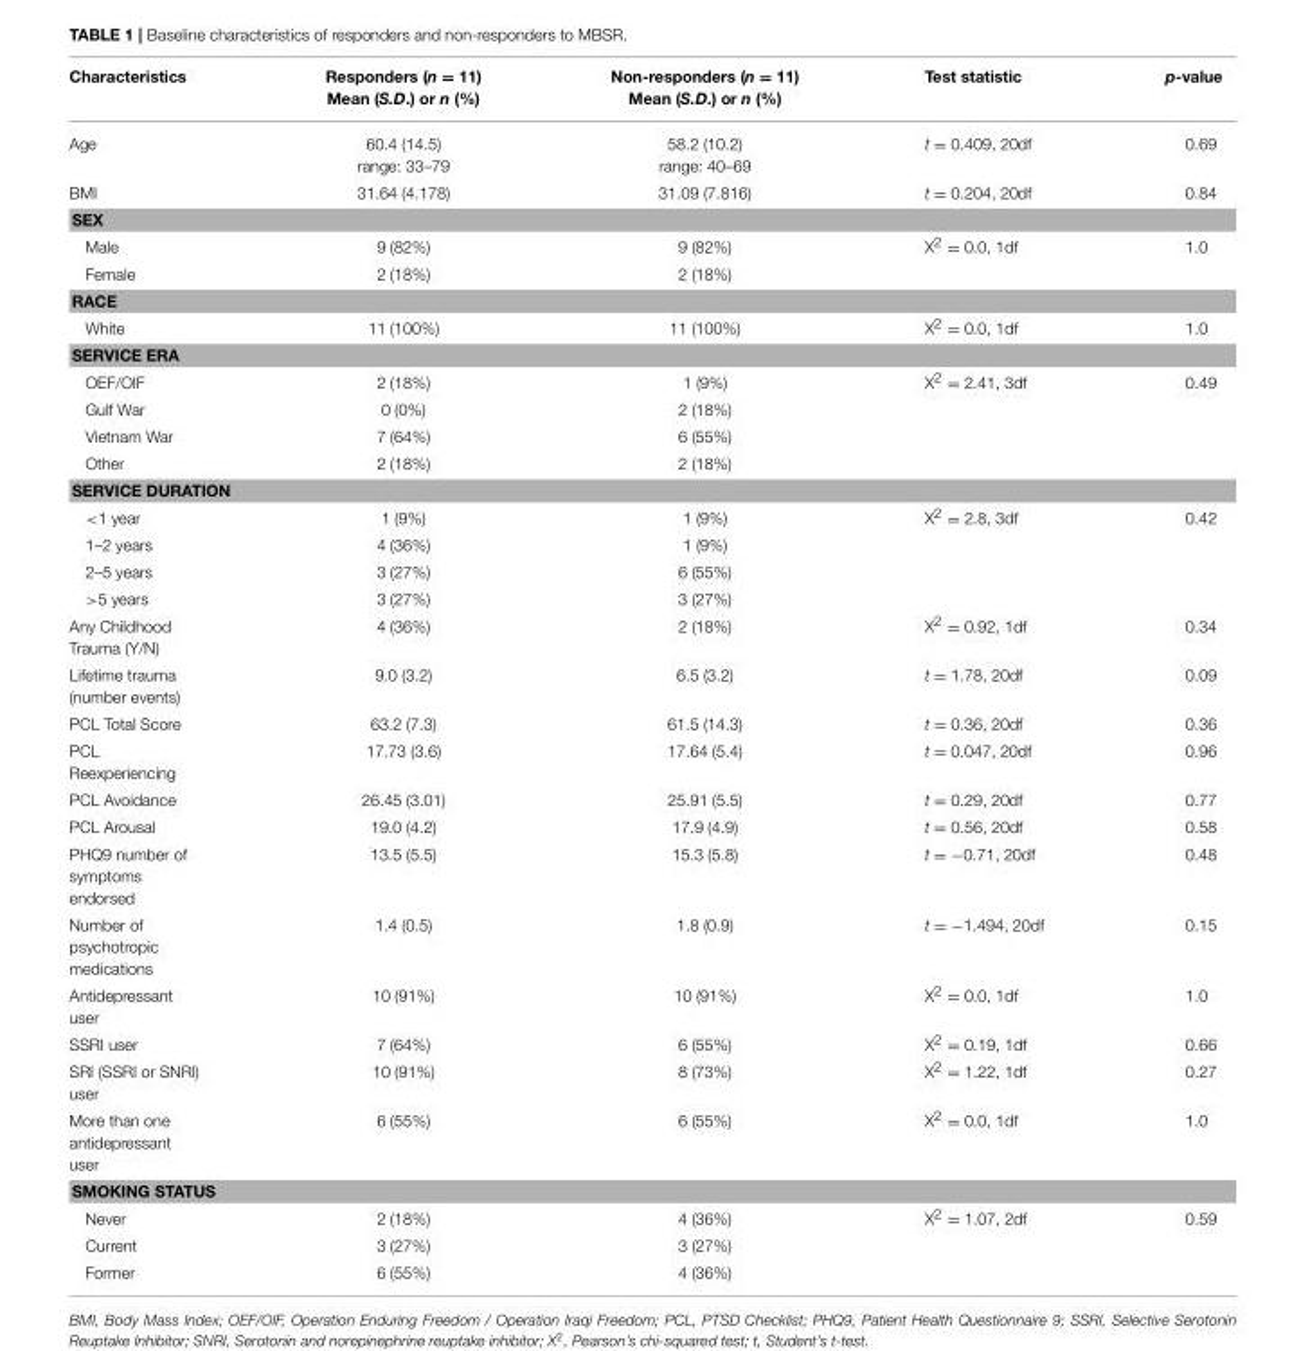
<table><thead><tr><td>Characteristics</td><td>Responders (n = 11) Mean (S.D.) or n (%)</td><td>Non-responders (n = 11) Mean (S.D.) or n (%)</td><td>Test statistic</td><td>p-value</td></tr></thead><tbody><tr><td>Age</td><td>60.4 (14.5) range: 33–79</td><td>58.2 (10.2) range: 40–69</td><td>t = 0.409, 20df</td><td>0.69</td></tr><tr><td>BMI</td><td>31.64 (4.178)</td><td>31.09 (7.816)</td><td>t = 0.204, 20df</td><td>0.84</td></tr><tr><td colspan="5">SEX</td></tr><tr><td>Male</td><td>9 (82%)</td><td>9 (82%)</td><td>X<sup>2</sup> = 0.0, 1df</td><td>1.0</td></tr><tr><td>Female</td><td>2 (18%)</td><td>2 (18%)</td><td></td><td></td></tr><tr><td colspan="5">RACE</td></tr><tr><td>White</td><td>11 (100%)</td><td>11 (100%)</td><td>X<sup>2</sup> = 0.0, 1df</td><td>1.0</td></tr><tr><td colspan="5">SERVICE ERA</td></tr><tr><td>OEF/OIF</td><td>2 (18%)</td><td>1 (9%)</td><td>X<sup>2</sup> = 2.41, 3df</td><td>0.49</td></tr><tr><td>Gulf War</td><td>0 (0%)</td><td>2 (18%)</td><td></td><td></td></tr><tr><td>Vietnam War</td><td>7 (64%)</td><td>6 (55%)</td><td></td><td></td></tr><tr><td>Other</td><td>2 (18%)</td><td>2 (18%)</td><td></td><td></td></tr><tr><td colspan="5">SERVICE DURATION</td></tr><tr><td>&lt;1 year</td><td>1 (9%)</td><td>1 (9%)</td><td>X<sup>2</sup> = 2.8, 3df</td><td>0.42</td></tr><tr><td>1–2 years</td><td>4 (36%)</td><td>1 (9%)</td><td></td><td></td></tr><tr><td>2–5 years</td><td>3 (27%)</td><td>6 (55%)</td><td></td><td></td></tr><tr><td>&gt;5 years</td><td>3 (27%)</td><td>3 (27%)</td><td></td><td></td></tr><tr><td>Any Childhood Trauma (Y/N)</td><td>4 (36%)</td><td>2 (18%)</td><td>X<sup>2</sup> = 0.92, 1df</td><td>0.34</td></tr><tr><td>Lifetime trauma (number events)</td><td>9.0 (3.2)</td><td>6.5 (3.2)</td><td>t = 1.78, 20df</td><td>0.09</td></tr><tr><td>PCL Total Score</td><td>63.2 (7.3)</td><td>61.5 (14.3)</td><td>t = 0.36, 20df</td><td>0.36</td></tr><tr><td>PCL Reexperiencing</td><td>17.73 (3.6)</td><td>17.64 (5.4)</td><td>t = 0.047, 20df</td><td>0.96</td></tr><tr><td>PCL Avoidance</td><td>26.45 (3.01)</td><td>25.91 (5.5)</td><td>t = 0.29, 20df</td><td>0.77</td></tr><tr><td>PCL Arousal</td><td>19.0 (4.2)</td><td>17.9 (4.9)</td><td>t = 0.56, 20df</td><td>0.58</td></tr><tr><td>PHQ9 number of symptoms endorsed</td><td>13.5 (5.5)</td><td>15.3 (5.8)</td><td>t = −0.71, 20df</td><td>0.48</td></tr><tr><td>Number of psychotropic medications</td><td>1.4 (0.5)</td><td>1.8 (0.9)</td><td>t = −1.494, 20df</td><td>0.15</td></tr><tr><td>Antidepressant user</td><td>10 (91%)</td><td>10 (91%)</td><td>X<sup>2</sup> = 0.0, 1df</td><td>1.0</td></tr><tr><td>SSRI user</td><td>7 (64%)</td><td>6 (55%)</td><td>X<sup>2</sup> = 0.19, 1df</td><td>0.66</td></tr><tr><td>SRI (SSRI or SNRI) user</td><td>10 (91%)</td><td>8 (73%)</td><td>X<sup>2</sup> = 1.22, 1df</td><td>0.27</td></tr><tr><td>More than one antidepressant user</td><td>6 (55%)</td><td>6 (55%)</td><td>X<sup>2</sup> = 0.0, 1df</td><td>1.0</td></tr><tr><td colspan="5">SMOKING STATUS</td></tr><tr><td>Never</td><td>2 (18%)</td><td>4 (36%)</td><td>X<sup>2</sup> = 1.07, 2df</td><td>0.59</td></tr><tr><td>Current</td><td>3 (27%)</td><td>3 (27%)</td><td></td><td></td></tr><tr><td>Former</td><td>6 (55%)</td><td>4 (36%)</td><td></td><td></td></tr></tbody></table>